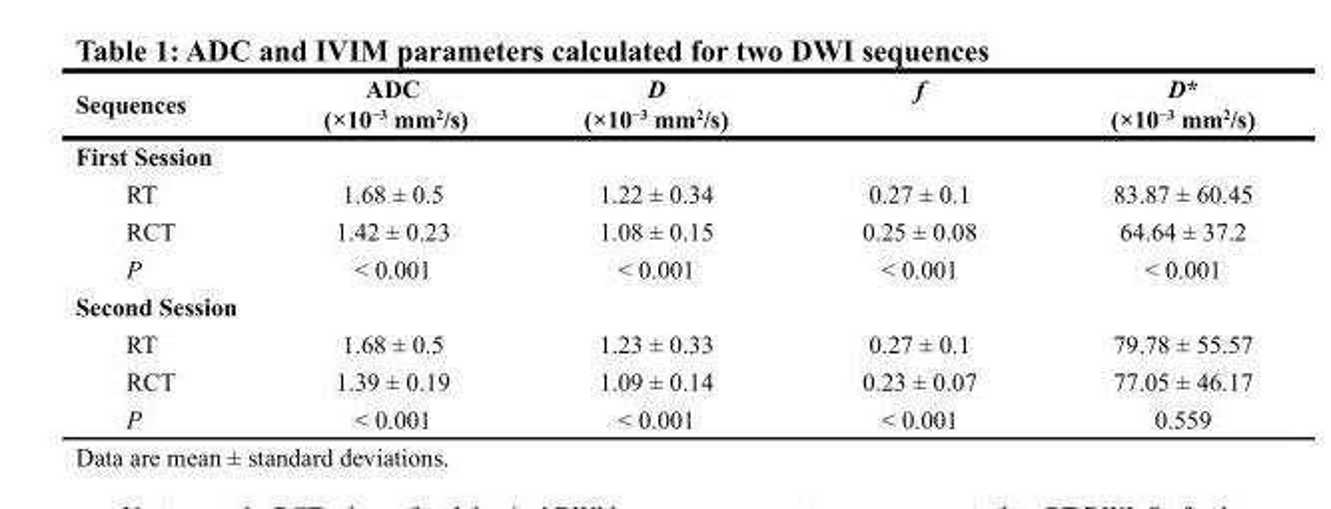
<table><thead><tr><td>Sequences</td><td>ADC (×10<sup>−3</sup> mm<sup>2</sup>/s)</td><td>D (×10<sup>−3</sup> mm<sup>2</sup>/s)</td><td>f</td><td>D* (×10<sup>−3</sup> mm<sup>2</sup>/s)</td></tr></thead><tbody><tr><td colspan="5">First Session</td></tr><tr><td>RT</td><td>1.68 ± 0.5</td><td>1.22 ± 0.34</td><td>0.27 ± 0.1</td><td>83.87 ± 60.45</td></tr><tr><td>RCT</td><td>1.42 ± 0.23</td><td>1.08 ± 0.15</td><td>0.25 ± 0.08</td><td>64.64 ± 37.2</td></tr><tr><td>P</td><td>&lt; 0.001</td><td>&lt; 0.001</td><td>&lt; 0.001</td><td>&lt; 0.001</td></tr><tr><td colspan="5">Second Session</td></tr><tr><td>RT</td><td>1.68 ± 0.5</td><td>1.23 ± 0.33</td><td>0.27 ± 0.1</td><td>79.78 ± 55.57</td></tr><tr><td>RCT</td><td>1.39 ± 0.19</td><td>1.09 ± 0.14</td><td>0.23 ± 0.07</td><td>77.05 ± 46.17</td></tr><tr><td>P</td><td>&lt; 0.001</td><td>&lt; 0.001</td><td>&lt; 0.001</td><td>0.559</td></tr></tbody></table>